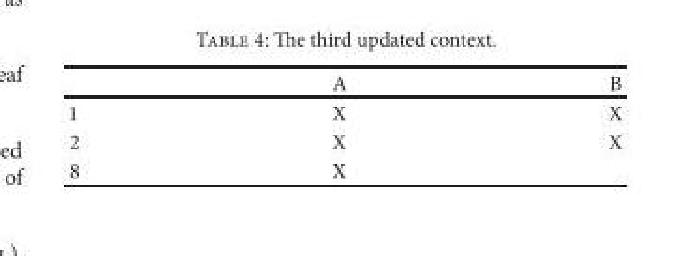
<table><thead><tr><td></td><td>A</td><td>B</td></tr></thead><tbody><tr><td>1</td><td>X</td><td>X</td></tr><tr><td>2</td><td>X</td><td>X</td></tr><tr><td>8</td><td>X</td><td></td></tr></tbody></table>